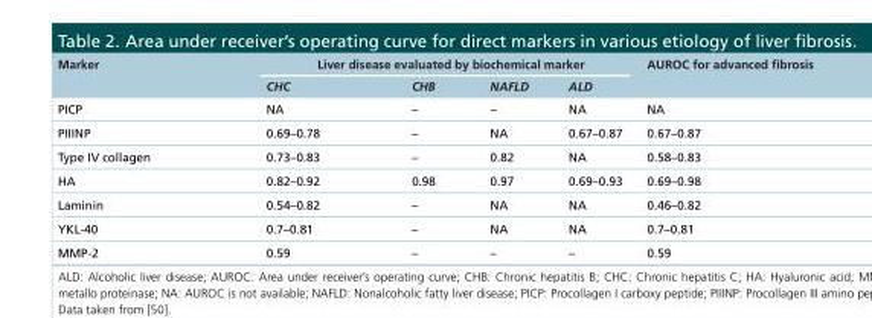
<table><thead><tr><td rowspan="2">Marker</td><td colspan="4">Liver disease evaluated by biochemical marker</td><td rowspan="2">AUROC for advanced fibrosis</td></tr><tr><td>CHC</td><td>CHB</td><td>NAFLD</td><td>ALD</td></tr></thead><tbody><tr><td>PICP</td><td>NA</td><td>–</td><td>–</td><td>NA</td><td>NA</td></tr><tr><td>PIIINP</td><td>0.69–0.78</td><td>–</td><td>NA</td><td>0.67–0.87</td><td>0.67–0.87</td></tr><tr><td>Type IV collagen</td><td>0.73–0.83</td><td>–</td><td>0.82</td><td>NA</td><td>0.58–0.83</td></tr><tr><td>HA</td><td>0.82–0.92</td><td>0.98</td><td>0.97</td><td>0.69–0.93</td><td>0.69–0.98</td></tr><tr><td>Laminin</td><td>0.54–0.82</td><td>–</td><td>NA</td><td>NA</td><td>0.46–0.82</td></tr><tr><td>YKL-40</td><td>0.7–0.81</td><td>–</td><td>NA</td><td>NA</td><td>0.7–0.81</td></tr><tr><td>MMP-2</td><td>0.59</td><td>–</td><td>–</td><td>–</td><td>0.59</td></tr></tbody></table>